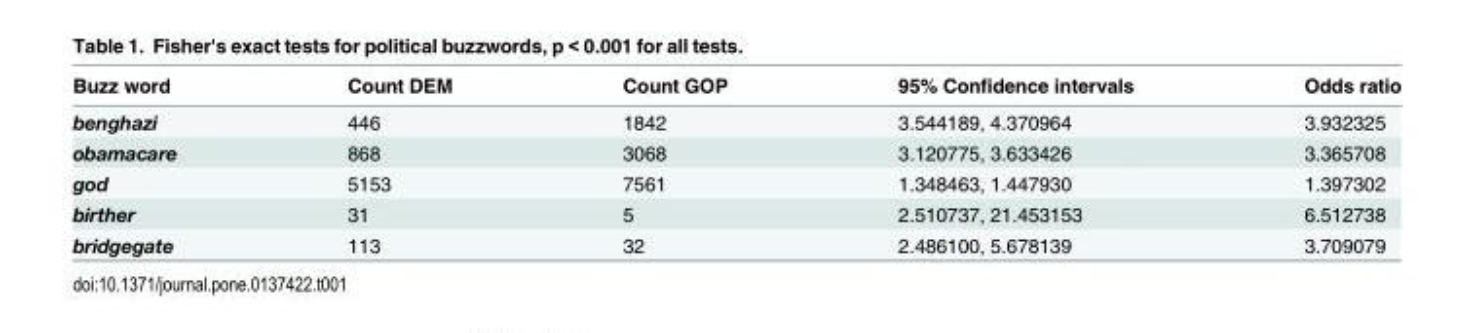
<table><thead><tr><td>Buzz word</td><td>Count DEM</td><td>Count GOP</td><td>95% Confidence intervals</td><td>Odds ratio</td></tr></thead><tbody><tr><td>benghazi</td><td>446</td><td>1842</td><td>3.544189, 4.370964</td><td>3.932325</td></tr><tr><td>obamacare</td><td>868</td><td>3068</td><td>3.120775, 3.633426</td><td>3.365708</td></tr><tr><td>god</td><td>5153</td><td>7561</td><td>1.348463, 1.447930</td><td>1.397302</td></tr><tr><td>birther</td><td>31</td><td>5</td><td>2.510737, 21.453153</td><td>6.512738</td></tr><tr><td>bridgegate</td><td>113</td><td>32</td><td>2.486100, 5.678139</td><td>3.709079</td></tr></tbody></table>